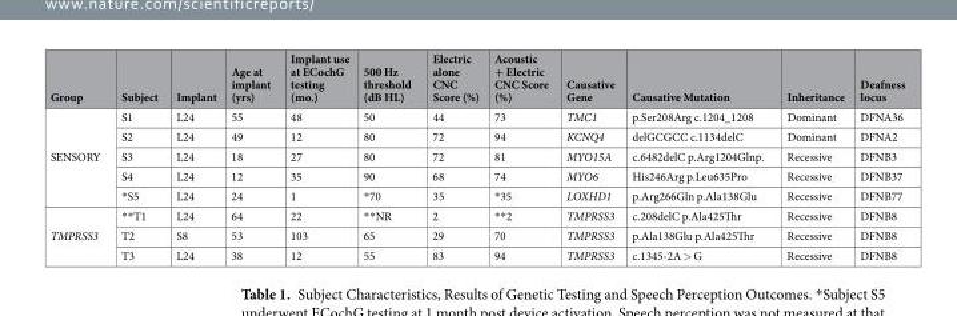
<table><thead><tr><td>Group</td><td>Subject</td><td>Implant</td><td>Age at implant (yrs)</td><td>Implant use at ECochG testing (mo.)</td><td>500 Hz threshold (dB HL)</td><td>Electric alone CNC Score (%)</td><td>Acoustic + Electric CNC Score (%)</td><td>Causative Gene</td><td>Causative Mutation</td><td>Inheritance</td><td>Deafness locus</td></tr></thead><tbody><tr><td rowspan="5">SENSORY</td><td>S1</td><td>L24</td><td>55</td><td>48</td><td>50</td><td>44</td><td>73</td><td>TMC1</td><td>p.Ser208Arg c.1204_1208</td><td>Dominant</td><td>DFNA36</td></tr><tr><td>S2</td><td>L24</td><td>49</td><td>12</td><td>80</td><td>72</td><td>94</td><td>KCNQ4</td><td>delGCGCC c.1134delC</td><td>Dominant</td><td>DFNA2</td></tr><tr><td>S3</td><td>L24</td><td>18</td><td>27</td><td>80</td><td>72</td><td>81</td><td>MYO15A</td><td>c.6482delC p.Arg1204Glnp.</td><td>Recessive</td><td>DFNB3</td></tr><tr><td>S4</td><td>L24</td><td>12</td><td>35</td><td>90</td><td>68</td><td>74</td><td>MYO6</td><td>His246Arg p.Leu635Pro</td><td>Recessive</td><td>DFNB37</td></tr><tr><td>*S5</td><td>L24</td><td>24</td><td>1</td><td>*70</td><td>35</td><td>*35</td><td>LOXHD1</td><td>p.Arg266Gln p.Ala138Glu</td><td>Recessive</td><td>DFNB77</td></tr><tr><td rowspan="3">TMPRSS3</td><td>**T1</td><td>L24</td><td>64</td><td>22</td><td>**NR</td><td>2</td><td>**2</td><td>TMPRSS3</td><td>c.208delC p.Ala425Thr</td><td>Recessive</td><td>DFNB8</td></tr><tr><td>T2</td><td>S8</td><td>53</td><td>103</td><td>65</td><td>29</td><td>70</td><td>TMPRSS3</td><td>p.Ala138Glu p.Ala425Thr</td><td>Recessive</td><td>DFNB8</td></tr><tr><td>T3</td><td>L24</td><td>38</td><td>12</td><td>55</td><td>83</td><td>94</td><td>TMPRSS3</td><td>c.1345-2A &gt; G</td><td>Recessive</td><td>DFNB8</td></tr></tbody></table>